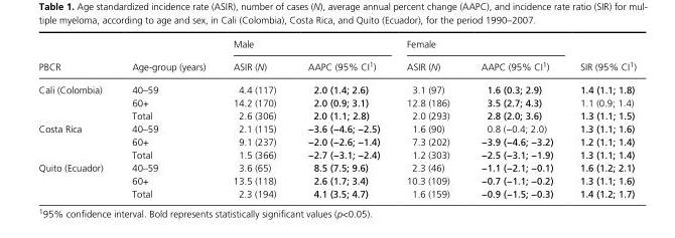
<table><thead><tr><td rowspan="2">PBCR</td><td rowspan="2">Age- group (years)</td><td colspan="2">Male</td><td colspan="2">Female</td><td rowspan="2">SIR (95% CI1)</td></tr><tr><td>ASIR (N)</td><td>AAPC (95% CI1)</td><td>ASIR (N)</td><td>AAPC (95% CI1)</td></tr></thead><tbody><tr><td rowspan="3">Cali (Colombia)</td><td>40–59</td><td>4.4 (117)</td><td>2.0 (1.4; 2.6)</td><td>3.1 (97)</td><td>1.6 (0.3; 2.9)</td><td>1.4 (1.1; 1.8)</td></tr><tr><td>60+</td><td>14.2 (170)</td><td>2.0 (0.9; 3.1)</td><td>12.8 (186)</td><td>3.5 (2.7; 4.3)</td><td>1.1 (0.9; 1.4)</td></tr><tr><td>Total</td><td>2.6 (306)</td><td>2.0 (1.1; 2.8)</td><td>2.0 (293)</td><td>2.8 (2.0; 3.6)</td><td>1.3 (1.1; 1.5)</td></tr><tr><td rowspan="3">Costa Rica</td><td>40–59</td><td>2.1 (115)</td><td>−3.6 (−4.6; −2.5)</td><td>1.6 (90)</td><td>0.8 (−0.4; 2.0)</td><td>1.3 (1.1; 1.6)</td></tr><tr><td>60+</td><td>9.1 (237)</td><td>−2.0 (−2.6; −1.4)</td><td>7.3 (202)</td><td>−3.9 (−4.6; −3.2)</td><td>1.2 (1.1; 1.4)</td></tr><tr><td>Total</td><td>1.5 (366)</td><td>−2.7 (−3.1; −2.4)</td><td>1.2 (303)</td><td>−2.5 (−3.1; −1.9)</td><td>1.3 (1.1; 1.4)</td></tr><tr><td rowspan="3">Quito (Ecuador)</td><td>40–59</td><td>3.6 (65)</td><td>8.5 (7.5; 9.6)</td><td>2.3 (46)</td><td>−1.1 (−2.1; −0.1)</td><td>1.6 (1.2; 2.1)</td></tr><tr><td>60+</td><td>13.5 (118)</td><td>2.6 (1.7; 3.4)</td><td>10.3 (109)</td><td>−0.7 (−1.1; −0.2)</td><td>1.3 (1.1; 1.6)</td></tr><tr><td>Total</td><td>2.3 (194)</td><td>4.1 (3.5; 4.7)</td><td>1.6 (159)</td><td>−0.9 (−1.5; −0.3)</td><td>1.4 (1.2; 1.7)</td></tr></tbody></table>